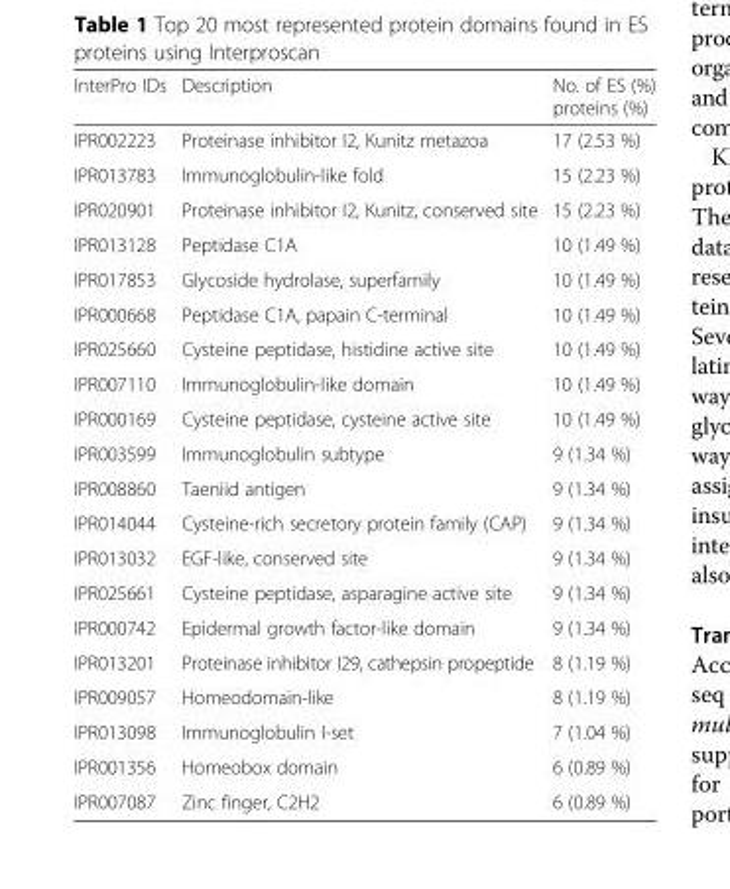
<table><thead><tr><td>InterPro IDs</td><td>Description</td><td>No. of ES (%) proteins (%)</td></tr></thead><tbody><tr><td>IPR002223</td><td>Proteinase inhibitor I2, Kunitz metazoa</td><td>17 (2.53 %)</td></tr><tr><td>IPR013783</td><td>Immunoglobulin-like fold</td><td>15 (2.23 %)</td></tr><tr><td>IPR020901</td><td>Proteinase inhibitor I2, Kunitz, conserved site</td><td>15 (2.23 %)</td></tr><tr><td>IPR013128</td><td>Peptidase C1A</td><td>10 (1.49 %)</td></tr><tr><td>IPR017853</td><td>Glycoside hydrolase, superfamily</td><td>10 (1.49 %)</td></tr><tr><td>IPR000668</td><td>Peptidase C1A, papain C-terminal</td><td>10 (1.49 %)</td></tr><tr><td>IPR025660</td><td>Cysteine peptidase, histidine active site</td><td>10 (1.49 %)</td></tr><tr><td>IPR007110</td><td>Immunoglobulin-like domain</td><td>10 (1.49 %)</td></tr><tr><td>IPR000169</td><td>Cysteine peptidase, cysteine active site</td><td>10 (1.49 %)</td></tr><tr><td>IPR003599</td><td>Immunoglobulin subtype</td><td>9 (1.34 %)</td></tr><tr><td>IPR008860</td><td>Taeniid antigen</td><td>9 (1.34 %)</td></tr><tr><td>IPR014044</td><td>Cysteine-rich secretory protein family (CAP)</td><td>9 (1.34 %)</td></tr><tr><td>IPR013032</td><td>EGF-like, conserved site</td><td>9 (1.34 %)</td></tr><tr><td>IPR025661</td><td>Cysteine peptidase, asparagine active site</td><td>9 (1.34 %)</td></tr><tr><td>IPR000742</td><td>Epidermal growth factor-like domain</td><td>9 (1.34 %)</td></tr><tr><td>IPR013201</td><td>Proteinase inhibitor I29, cathepsin propeptide</td><td>8 (1.19 %)</td></tr><tr><td>IPR009057</td><td>Homeodomain-like</td><td>8 (1.19 %)</td></tr><tr><td>IPR013098</td><td>Immunoglobulin I-set</td><td>7 (1.04 %)</td></tr><tr><td>IPR001356</td><td>Homeobox domain</td><td>6 (0.89 %)</td></tr><tr><td>IPR007087</td><td>Zinc finger, C2H2</td><td>6 (0.89 %)</td></tr></tbody></table>